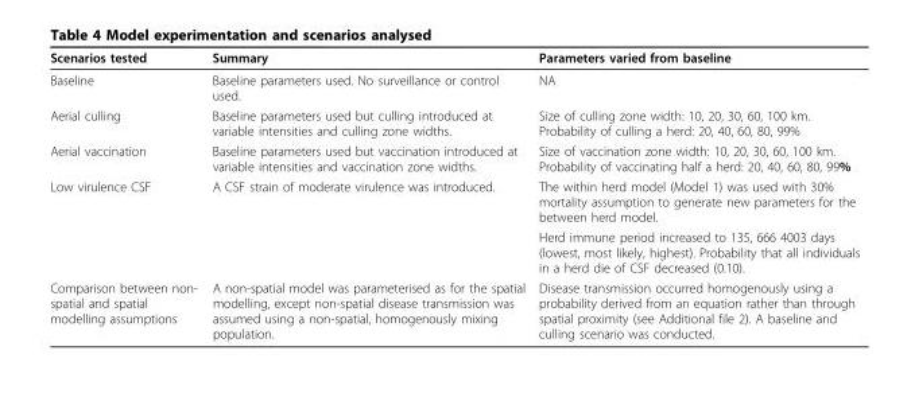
<table><thead><tr><td>Scenarios tested</td><td>Summary</td><td>Parameters varied from baseline</td></tr></thead><tbody><tr><td>Baseline</td><td>Baseline parameters used. No surveillance or control used.</td><td>NA</td></tr><tr><td>Aerial culling</td><td>Baseline parameters used but culling introduced at variable intensities and culling zone widths.</td><td>Size of culling zone width: 10, 20, 30, 60, 100 km. Probability of culling a herd: 20, 40, 60, 80, 99%</td></tr><tr><td>Aerial vaccination</td><td>Baseline parameters used but vaccination introduced at variable intensities and vaccination zone widths.</td><td>Size of vaccination zone width: 10, 20, 30, 60, 100 km. Probability of vaccinating half a herd: 20, 40, 60, 80, 99%</td></tr><tr><td rowspan="2">Low virulence CSF</td><td>A CSF strain of moderate virulence was introduced.</td><td>The within herd model (Model 1) was used with 30% mortality assumption to generate new parameters for the between herd model.</td></tr><tr><td></td><td>Herd immune period increased to 135, 666 4003 days (lowest, most likely, highest). Probability that all individuals in a herd die of CSF decreased (0.10).</td></tr><tr><td>Comparison between non- spatial and spatial modelling assumptions</td><td>A non-spatial model was parameterised as for the spatial modelling, except non-spatial disease transmission was assumed using a non-spatial, homogenously mixing population.</td><td>Disease transmission occurred homogenously using a probability derived from an equation rather than through spatial proximity (see Additional file 2). A baseline and culling scenario was conducted.</td></tr></tbody></table>